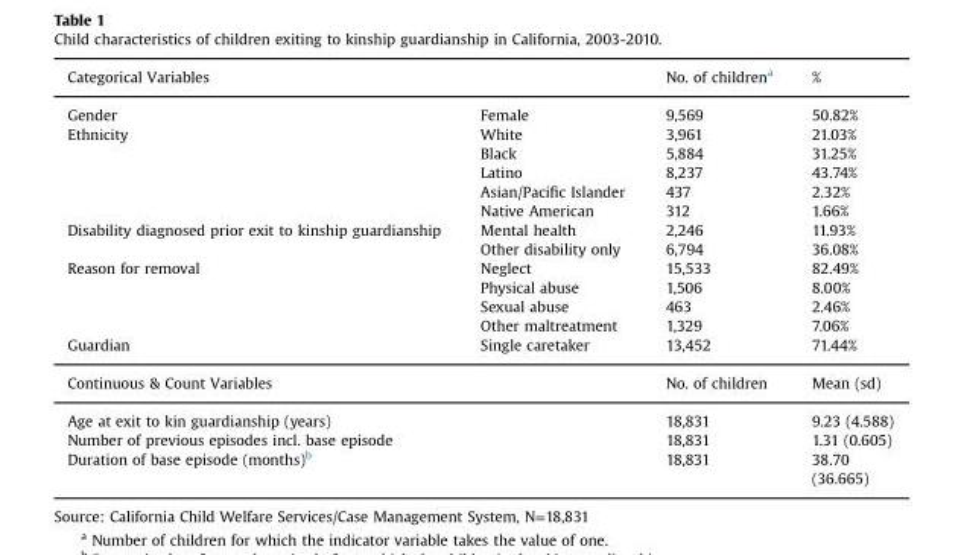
<table><thead><tr><td colspan="2">Categorical Variables</td><td rowspan="2">No. of children<sup>a</sup> 9,569</td><td rowspan="2">% 50.82%</td></tr><tr><td>Gender</td><td>Female</td></tr></thead><tbody><tr><td rowspan="5">Ethnicity</td><td>White</td><td>3,961</td><td>21.03%</td></tr><tr><td>Black</td><td>5,884</td><td>31.25%</td></tr><tr><td>Latino</td><td>8,237</td><td>43.74%</td></tr><tr><td>Asian/Pacific Islander</td><td>437</td><td>2.32%</td></tr><tr><td>Native American</td><td>312</td><td>1.66%</td></tr><tr><td rowspan="2">Disability diagnosed prior exit to kinship guardianship</td><td>Mental health</td><td>2,246</td><td>11.93%</td></tr><tr><td>Other disability only</td><td>6,794</td><td>36.08%</td></tr><tr><td rowspan="4">Reason for removal</td><td>Neglect</td><td>15,533</td><td>82.49%</td></tr><tr><td>Physical abuse</td><td>1,506</td><td>8.00%</td></tr><tr><td>Sexual abuse</td><td>463</td><td>2.46%</td></tr><tr><td>Other maltreatment</td><td>1,329</td><td>7.06%</td></tr><tr><td>Guardian</td><td>Single caretaker</td><td>13,452</td><td>71.44%</td></tr><tr><td colspan="2">Continuous &amp; Count Variables</td><td>No. of children</td><td>Mean (sd)</td></tr><tr><td colspan="2">Age at exit to kin guardianship (years)</td><td>18,831</td><td>9.23 (4.588)</td></tr><tr><td colspan="2">Number of previous episodes incl. base episode</td><td>18,831</td><td>1.31 (0.605)</td></tr><tr><td colspan="2">Duration of base episode (months)<sup>b</sup></td><td>18,831</td><td>38.70 (36.665)</td></tr></tbody></table>